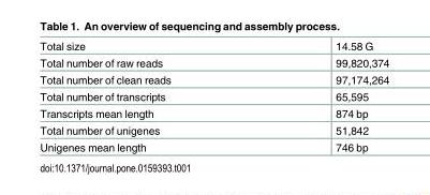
<table><tbody><tr><td>Total size</td><td>14.58 G</td></tr><tr><td>Total number of raw reads</td><td>99,820,374</td></tr><tr><td>Total number of clean reads</td><td>97,174,264</td></tr><tr><td>Total number of transcripts</td><td>65,595</td></tr><tr><td>Transcripts mean length</td><td>874 bp</td></tr><tr><td>Total number of unigenes</td><td>51,842</td></tr><tr><td>Unigenes mean length</td><td>746 bp</td></tr></tbody></table>